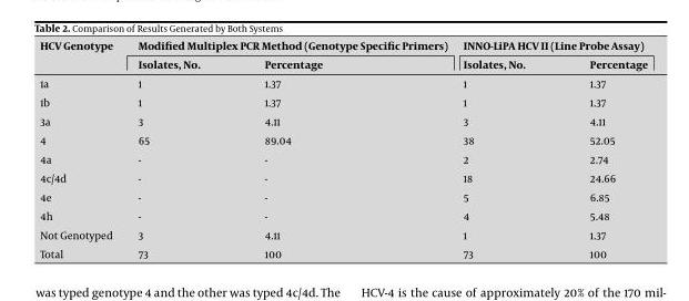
<table><thead><tr><td rowspan="2">HCV Genotype</td><td colspan="2">Modified Multiplex PCR Method (Genotype Specific Primers)</td><td colspan="2">INNO-LiPA HCV II (Line Probe Assay)</td></tr><tr><td>Isolates, No.</td><td>Percentage</td><td>Isolates, No.</td><td>Percentage</td></tr></thead><tbody><tr><td>1a</td><td>1</td><td>1.37</td><td>1</td><td>1.37</td></tr><tr><td>1b</td><td>1</td><td>1.37</td><td>1</td><td>1.37</td></tr><tr><td>3a</td><td>3</td><td>4.11</td><td>3</td><td>4.11</td></tr><tr><td>4</td><td>65</td><td>89.04</td><td>38</td><td>52.05</td></tr><tr><td>4a</td><td>-</td><td>-</td><td>2</td><td>2.74</td></tr><tr><td>4c/4d</td><td>-</td><td>-</td><td>18</td><td>24.66</td></tr><tr><td>4e</td><td>-</td><td>-</td><td>5</td><td>6.85</td></tr><tr><td>4h</td><td>-</td><td>-</td><td>4</td><td>5.48</td></tr><tr><td>Not Genotyped</td><td>3</td><td>4.11</td><td>1</td><td>1.37</td></tr><tr><td>Total</td><td>73</td><td>100</td><td>73</td><td>100</td></tr></tbody></table>